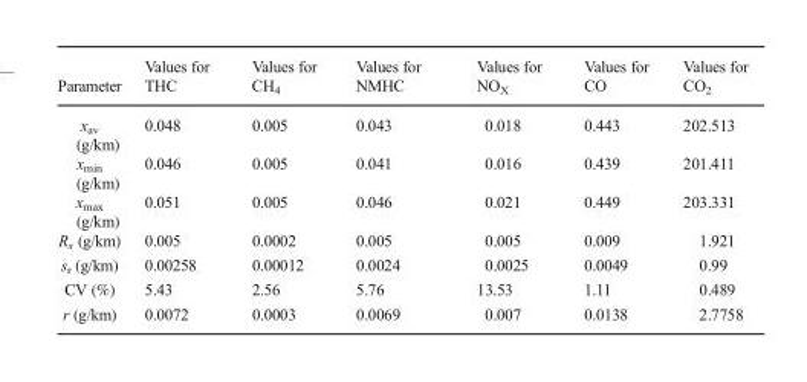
<table><thead><tr><td>Parameter</td><td>Values for THC</td><td>Values for CH<sub>4</sub></td><td>Values for NMHC</td><td>Values for NO<sub>X</sub></td><td>Values for CO</td><td>Values for CO<sub>2</sub></td></tr></thead><tbody><tr><td>x<sub>av</sub> (g/km)</td><td>0.048</td><td>0.005</td><td>0.043</td><td>0.018</td><td>0.443</td><td>202.513</td></tr><tr><td>x<sub>min</sub> (g/km)</td><td>0.046</td><td>0.005</td><td>0.041</td><td>0.016</td><td>0.439</td><td>201.411</td></tr><tr><td>x<sub>max</sub> (g/km)</td><td>0.051</td><td>0.005</td><td>0.046</td><td>0.021</td><td>0.449</td><td>203.331</td></tr><tr><td>R<sub>x</sub> (g/km)</td><td>0.005</td><td>0.0002</td><td>0.005</td><td>0.005</td><td>0.009</td><td>1.921</td></tr><tr><td>s<sub>r</sub> (g/km)</td><td>0.00258</td><td>0.00012</td><td>0.0024</td><td>0.0025</td><td>0.0049</td><td>0.99</td></tr><tr><td>CV (%)</td><td>5.43</td><td>2.56</td><td>5.76</td><td>13.53</td><td>1.11</td><td>0.489</td></tr><tr><td>r (g/km)</td><td>0.0072</td><td>0.0003</td><td>0.0069</td><td>0.007</td><td>0.0138</td><td>2.7758</td></tr></tbody></table>